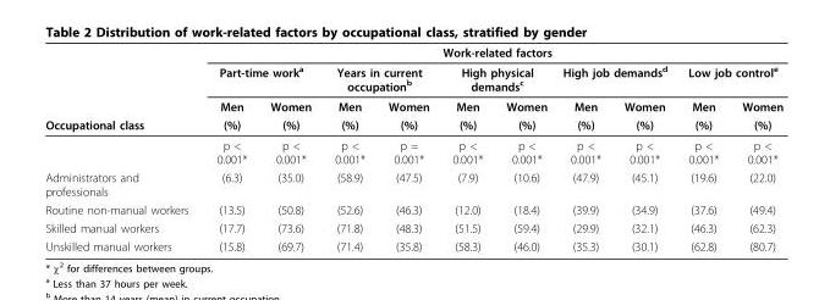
<table><thead><tr><td rowspan="4">Occupational class</td><td colspan="10">Work-related factors</td></tr><tr><td colspan="2">Part-time work<sup>a</sup></td><td colspan="2">Years in current occupation<sup>b</sup></td><td colspan="2">High physical demands<sup>c</sup></td><td colspan="2">High job demands<sup>d</sup></td><td colspan="2">Low job control<sup>e</sup></td></tr><tr><td rowspan="2">Men (%)</td><td rowspan="2">Women (%)</td><td rowspan="2">Men (%)</td><td rowspan="2">Women (%)</td><td rowspan="2">Men (%)</td><td rowspan="2">Women (%)</td><td rowspan="2">Men (%)</td><td rowspan="2">Women (%)</td><td rowspan="2">Men (%)</td><td rowspan="2">Women (%)</td></tr><tr></tr></thead><tbody><tr><td></td><td>p &lt; 0.001*</td><td>p &lt; 0.001*</td><td>p &lt; 0.001*</td><td>p = 0.001*</td><td>p &lt; 0.001*</td><td>p &lt; 0.001*</td><td>p &lt; 0.001*</td><td>p &lt; 0.001*</td><td>p &lt; 0.001*</td><td>p &lt; 0.001*</td></tr><tr><td>Administrators and professionals</td><td>(6.3)</td><td>(35.0)</td><td>(58.9)</td><td>(47.5)</td><td>(7.9)</td><td>(10.6)</td><td>(47.9)</td><td>(45.1)</td><td>(19.6)</td><td>(22.0)</td></tr><tr><td>Routine non-manual workers</td><td>(13.5)</td><td>(50.8)</td><td>(52.6)</td><td>(46.3)</td><td>(12.0)</td><td>(18.4)</td><td>(39.9)</td><td>(34.9)</td><td>(37.6)</td><td>(49.4)</td></tr><tr><td>Skilled manual workers</td><td>(17.7)</td><td>(73.6)</td><td>(71.8)</td><td>(48.3)</td><td>(51.5)</td><td>(59.4)</td><td>(29.9)</td><td>(32.1)</td><td>(46.3)</td><td>(62.3)</td></tr><tr><td>Unskilled manual workers</td><td>(15.8)</td><td>(69.7)</td><td>(71.4)</td><td>(35.8)</td><td>(58.3)</td><td>(46.0)</td><td>(35.3)</td><td>(30.1)</td><td>(62.8)</td><td>(80.7)</td></tr></tbody></table>